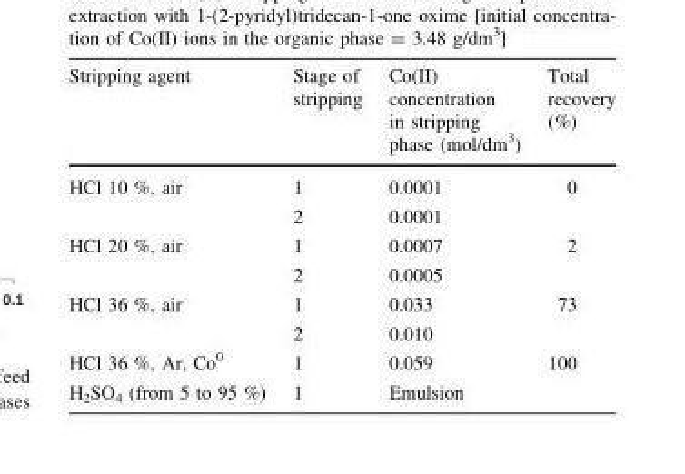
<table><thead><tr><td>Stripping agent</td><td>Stage of stripping</td><td>Co(II) concentration in stripping phase (mol/dm<sup>3</sup>)</td><td>Total recovery (%)</td></tr></thead><tbody><tr><td rowspan="2">HCl 10 %, air</td><td>1</td><td>0.0001</td><td rowspan="2">0</td></tr><tr><td>2</td><td>0.0001</td></tr><tr><td rowspan="2">HCl 20 %, air</td><td>1</td><td>0.0007</td><td rowspan="2">2</td></tr><tr><td>2</td><td>0.0005</td></tr><tr><td rowspan="2">HCl 36 %, air</td><td>1</td><td>0.033</td><td rowspan="2">73</td></tr><tr><td>2</td><td>0.010</td></tr><tr><td>HCl 36 %, Ar, Co<sup>0</sup></td><td>1</td><td>0.059</td><td>100</td></tr><tr><td>H<sub>2</sub>SO<sub>4</sub> (from 5 to 95 %)</td><td>1</td><td colspan="2">Emulsion</td></tr></tbody></table>